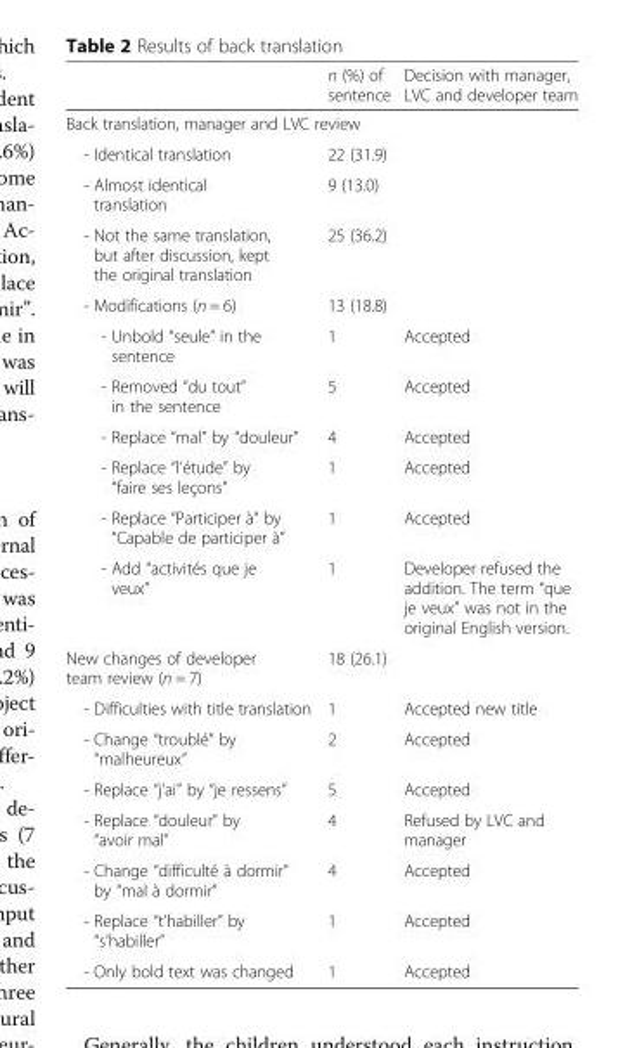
<table><thead><tr><td></td><td>n (%) of sentence</td><td>Decision with manager, LVC and developer team</td></tr></thead><tbody><tr><td colspan="3">Back translation, manager and LVC review</td></tr><tr><td>- Identical translation</td><td>22 (31.9)</td><td></td></tr><tr><td>- Almost identical translation</td><td>9 (13.0)</td><td></td></tr><tr><td>- Not the same translation, but after discussion, kept the original translation</td><td>25 (36.2)</td><td></td></tr><tr><td>- Modifications (n = 6)</td><td>13 (18.8)</td><td></td></tr><tr><td>- Unbold “seule” in the sentence</td><td>1</td><td>Accepted</td></tr><tr><td>- Removed “du tout” in the sentence</td><td>5</td><td>Accepted</td></tr><tr><td>- Replace “mal” by “douleur”</td><td>4</td><td>Accepted</td></tr><tr><td>- Replace “l’étude” by “faire ses leçons”</td><td>1</td><td>Accepted</td></tr><tr><td>- Replace “Participer à” by “Capable de participer à”</td><td>1</td><td>Accepted</td></tr><tr><td>- Add “activités que je veux”</td><td>1</td><td>Developer refused the addition. The term “que je veux” was not in the original English version.</td></tr><tr><td>New changes of developer team review (n = 7)</td><td>18 (26.1)</td><td></td></tr><tr><td>- Difficulties with title translation</td><td>1</td><td>Accepted new title</td></tr><tr><td>- Change “troublé” by “malheureux”</td><td>2</td><td>Accepted</td></tr><tr><td>- Replace “j’ai” by “je ressens”</td><td>5</td><td>Accepted</td></tr><tr><td>- Replace “douleur” by “avoir mal”</td><td>4</td><td>Refused by LVC and manager</td></tr><tr><td>- Change “difficulté à dormir” by “mal à dormir”</td><td>4</td><td>Accepted</td></tr><tr><td>- Replace “t’habiller” by “s’habiller”</td><td>1</td><td>Accepted</td></tr><tr><td>- Only bold text was changed</td><td>1</td><td>Accepted</td></tr></tbody></table>